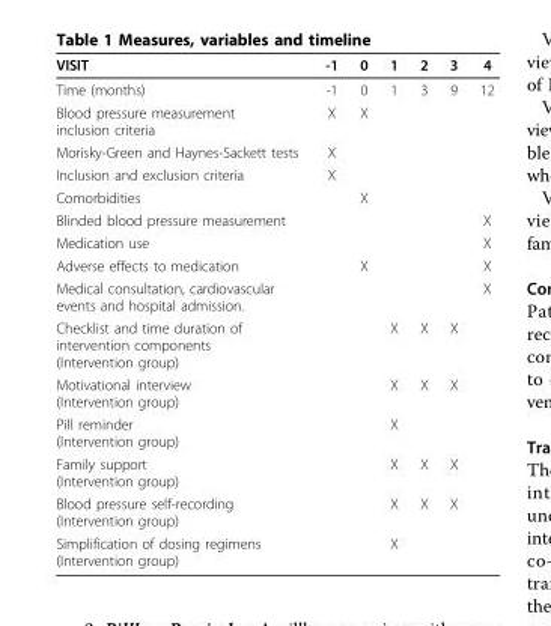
<table><thead><tr><td>VISIT</td><td>-1</td><td>0</td><td>1</td><td>2</td><td>3</td><td>4</td></tr></thead><tbody><tr><td>Time (months)</td><td>-1</td><td>0</td><td>1</td><td>3</td><td>9</td><td>12</td></tr><tr><td>Blood pressure measurement inclusion criteria</td><td>X</td><td>X</td><td></td><td></td><td></td><td></td></tr><tr><td>Morisky-Green and Haynes-Sackett tests</td><td>X</td><td></td><td></td><td></td><td></td><td></td></tr><tr><td>Inclusion and exclusion criteria</td><td>X</td><td></td><td></td><td></td><td></td><td></td></tr><tr><td>Comorbidities</td><td></td><td>X</td><td></td><td></td><td></td><td></td></tr><tr><td>Blinded blood pressure measurement</td><td></td><td></td><td></td><td></td><td></td><td>X</td></tr><tr><td>Medication use</td><td></td><td></td><td></td><td></td><td></td><td>X</td></tr><tr><td>Adverse effects to medication</td><td></td><td>X</td><td></td><td></td><td></td><td>X</td></tr><tr><td>Medical consultation, cardiovascular events and hospital admission.</td><td></td><td></td><td></td><td></td><td></td><td>X</td></tr><tr><td>Checklist and time duration of intervention components (Intervention group)</td><td></td><td></td><td>X</td><td>X</td><td>X</td><td></td></tr><tr><td>Motivational interview (Intervention group)</td><td></td><td></td><td>X</td><td>X</td><td>X</td><td></td></tr><tr><td>Pill reminder (Intervention group)</td><td></td><td></td><td>X</td><td></td><td></td><td></td></tr><tr><td>Family support (Intervention group)</td><td></td><td></td><td>X</td><td>X</td><td>X</td><td></td></tr><tr><td>Blood pressure self-recording (Intervention group)</td><td></td><td></td><td>X</td><td>X</td><td>X</td><td></td></tr><tr><td>Simplification of dosing regimens (Intervention group)</td><td></td><td></td><td>X</td><td></td><td></td><td></td></tr></tbody></table>